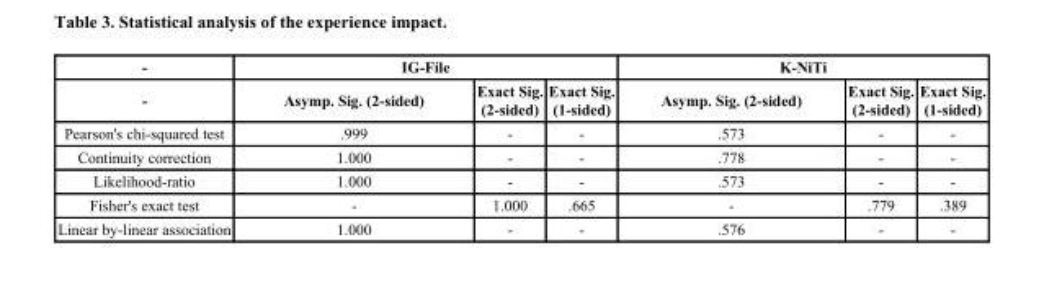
<table><thead><tr><td rowspan="2">- -</td><td colspan="3">IG-File</td><td colspan="3">K-NiTi</td></tr><tr><td>Asymp. Sig. (2-sided)</td><td>Exact Sig. (2-sided)</td><td>Exact Sig. (1-sided)</td><td>Asymp. Sig. (2-sided)</td><td>Exact Sig. (2-sided)</td><td>Exact Sig. (1-sided)</td></tr></thead><tbody><tr><td>Pearson&#x27;s chi-squared test</td><td>.999</td><td>-</td><td>-</td><td>.573</td><td>-</td><td>-</td></tr><tr><td>Continuity correction</td><td>1.000</td><td>-</td><td>-</td><td>.778</td><td>-</td><td>-</td></tr><tr><td>Likelihood-ratio</td><td>1.000</td><td>-</td><td>-</td><td>.573</td><td>-</td><td>-</td></tr><tr><td>Fisher&#x27;s exact test</td><td>-</td><td>1.000</td><td>.665</td><td>-</td><td>.779</td><td>.389</td></tr><tr><td>Linear by-linear association</td><td>1.000</td><td>-</td><td>-</td><td>.576</td><td>-</td><td>-</td></tr></tbody></table>